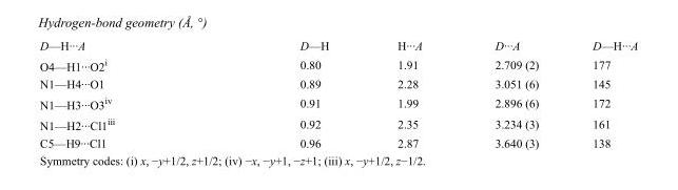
<table><tbody><tr><td>D—H···A</td><td>D—H</td><td>H···A</td><td>D···A</td><td>D—H···A</td></tr><tr><td>O4—H1···O2<sup>i</sup></td><td>0.80</td><td>1.91</td><td>2.709 (2)</td><td>177</td></tr><tr><td>N1—H4···O1</td><td>0.89</td><td>2.28</td><td>3.051 (6)</td><td>145</td></tr><tr><td>N1—H3···O3<sup>iv</sup></td><td>0.91</td><td>1.99</td><td>2.896 (6)</td><td>172</td></tr><tr><td>N1—H2···Cl1<sup>iii</sup></td><td>0.92</td><td>2.35</td><td>3.234 (3)</td><td>161</td></tr><tr><td>C5—H9···Cl1</td><td>0.96</td><td>2.87</td><td>3.640 (3)</td><td>138</td></tr></tbody></table>